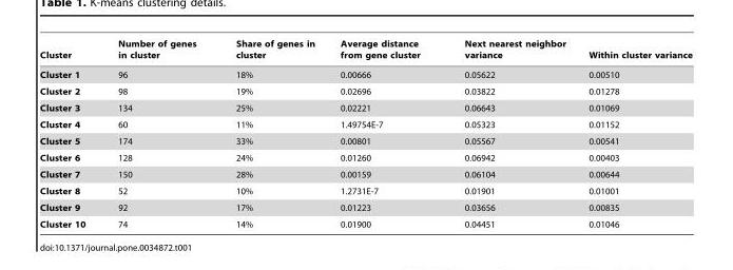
<table><thead><tr><td>Cluster</td><td>Number of genes in cluster</td><td>Share of genes in cluster</td><td>Average distance from gene cluster</td><td>Next nearest neighbor variance</td><td>Within cluster variance</td></tr></thead><tbody><tr><td>Cluster 1</td><td>96</td><td>18%</td><td>0.00666</td><td>0.05622</td><td>0.00510</td></tr><tr><td>Cluster 2</td><td>98</td><td>19%</td><td>0.02696</td><td>0.03822</td><td>0.01278</td></tr><tr><td>Cluster 3</td><td>134</td><td>25%</td><td>0.02221</td><td>0.06643</td><td>0.01069</td></tr><tr><td>Cluster 4</td><td>60</td><td>11%</td><td>1.49754E-7</td><td>0.05323</td><td>0.01152</td></tr><tr><td>Cluster 5</td><td>174</td><td>33%</td><td>0.00801</td><td>0.05567</td><td>0.00541</td></tr><tr><td>Cluster 6</td><td>128</td><td>24%</td><td>0.01260</td><td>0.06942</td><td>0.00403</td></tr><tr><td>Cluster 7</td><td>150</td><td>28%</td><td>0.00159</td><td>0.06104</td><td>0.00644</td></tr><tr><td>Cluster 8</td><td>52</td><td>10%</td><td>1.2731E-7</td><td>0.01901</td><td>0.01001</td></tr><tr><td>Cluster 9</td><td>92</td><td>17%</td><td>0.01223</td><td>0.03656</td><td>0.00835</td></tr><tr><td>Cluster 10</td><td>74</td><td>14%</td><td>0.01900</td><td>0.04451</td><td>0.01046</td></tr></tbody></table>